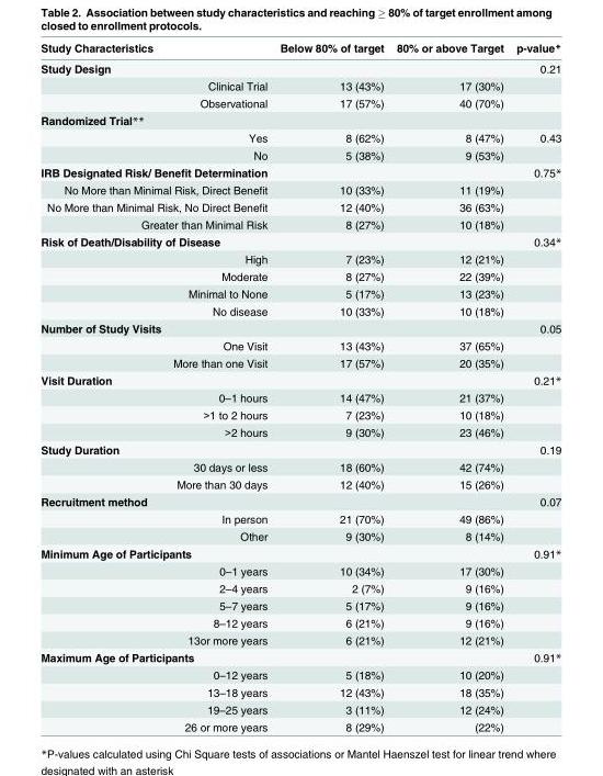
<table><thead><tr><td>Study Characteristics</td><td>Below 80% of target</td><td>80% or above Target</td><td>p-value*</td></tr></thead><tbody><tr><td>Study Design</td><td></td><td></td><td>0.21</td></tr><tr><td>Clinical Trial</td><td>13 (43%)</td><td>17 (30%)</td><td></td></tr><tr><td>Observational</td><td>17 (57%)</td><td>40 (70%)</td><td></td></tr><tr><td colspan="4">Randomized Trial**</td></tr><tr><td>Yes</td><td>8 (62%)</td><td>8 (47%)</td><td>0.43</td></tr><tr><td>No</td><td>5 (38%)</td><td>9 (53%)</td><td></td></tr><tr><td>IRB Designated Risk/ Benefit Determination</td><td></td><td></td><td>0.75*</td></tr><tr><td>No More than Minimal Risk, Direct Benefit</td><td>10 (33%)</td><td>11 (19%)</td><td></td></tr><tr><td>No More than Minimal Risk, No Direct Benefit</td><td>12 (40%)</td><td>36 (63%)</td><td></td></tr><tr><td>Greater than Minimal Risk</td><td>8 (27%)</td><td>10 (18%)</td><td></td></tr><tr><td>Risk of Death/Disability of Disease</td><td></td><td></td><td>0.34*</td></tr><tr><td>High</td><td>7 (23%)</td><td>12 (21%)</td><td></td></tr><tr><td>Moderate</td><td>8 (27%)</td><td>22 (39%)</td><td></td></tr><tr><td>Minimal to None</td><td>5 (17%)</td><td>13 (23%)</td><td></td></tr><tr><td>No disease</td><td>10 (33%)</td><td>10 (18%)</td><td></td></tr><tr><td>Number of Study Visits</td><td></td><td></td><td>0.05</td></tr><tr><td>One Visit</td><td>13 (43%)</td><td>37 (65%)</td><td></td></tr><tr><td>More than one Visit</td><td>17 (57%)</td><td>20 (35%)</td><td></td></tr><tr><td>Visit Duration</td><td></td><td></td><td>0.21*</td></tr><tr><td>0–1 hours</td><td>14 (47%)</td><td>21 (37%)</td><td></td></tr><tr><td>&gt;1 to 2 hours</td><td>7 (23%)</td><td>10 (18%)</td><td></td></tr><tr><td>&gt;2 hours</td><td>9 (30%)</td><td>23 (46%)</td><td></td></tr><tr><td>Study Duration</td><td></td><td></td><td>0.19</td></tr><tr><td>30 days or less</td><td>18 (60%)</td><td>42 (74%)</td><td></td></tr><tr><td>More than 30 days</td><td>12 (40%)</td><td>15 (26%)</td><td></td></tr><tr><td>Recruitment method</td><td></td><td></td><td>0.07</td></tr><tr><td>In person</td><td>21 (70%)</td><td>49 (86%)</td><td></td></tr><tr><td>Other</td><td>9 (30%)</td><td>8 (14%)</td><td></td></tr><tr><td>Minimum Age of Participants</td><td></td><td></td><td>0.91*</td></tr><tr><td>0–1 years</td><td>10 (34%)</td><td>17 (30%)</td><td></td></tr><tr><td>2–4 years</td><td>2 (7%)</td><td>9 (16%)</td><td></td></tr><tr><td>5–7 years</td><td>5 (17%)</td><td>9 (16%)</td><td></td></tr><tr><td>8–12 years</td><td>6 (21%)</td><td>9 (16%)</td><td></td></tr><tr><td>13or more years</td><td>6 (21%)</td><td>12 (21%)</td><td></td></tr><tr><td>Maximum Age of Participants</td><td></td><td></td><td>0.91*</td></tr><tr><td>0–12 years</td><td>5 (18%)</td><td>10 (20%)</td><td></td></tr><tr><td>13–18 years</td><td>12 (43%)</td><td>18 (35%)</td><td></td></tr><tr><td>19–25 years</td><td>3 (11%)</td><td>12 (24%)</td><td></td></tr><tr><td>26 or more years</td><td>8 (29%)</td><td>(22%)</td><td></td></tr></tbody></table>